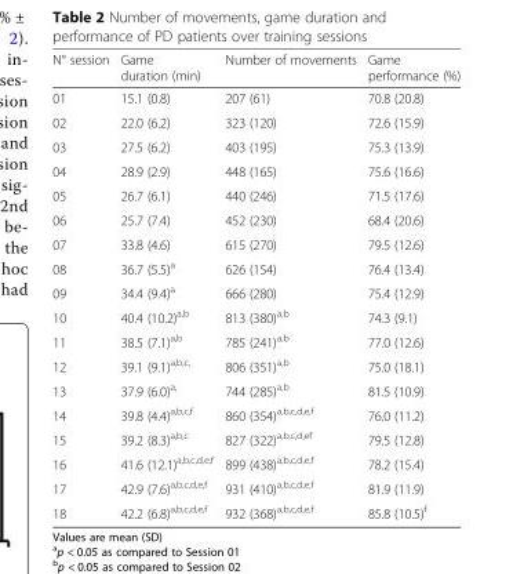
<table><thead><tr><td>N° session</td><td>Game duration (min)</td><td>Number of movements</td><td>Game performance (%)</td></tr></thead><tbody><tr><td>01</td><td>15.1 (0.8)</td><td>207 (61)</td><td>70.8 (20.8)</td></tr><tr><td>02</td><td>22.0 (6.2)</td><td>323 (120)</td><td>72.6 (15.9)</td></tr><tr><td>03</td><td>27.5 (6.2)</td><td>403 (195)</td><td>75.3 (13.9)</td></tr><tr><td>04</td><td>28.9 (2.9)</td><td>448 (165)</td><td>75.6 (16.6)</td></tr><tr><td>05</td><td>26.7 (6.1)</td><td>440 (246)</td><td>71.5 (17.6)</td></tr><tr><td>06</td><td>25.7 (7.4)</td><td>452 (230)</td><td>68.4 (20.6)</td></tr><tr><td>07</td><td>33.8 (4.6)</td><td>615 (270)</td><td>79.5 (12.6)</td></tr><tr><td>08</td><td>36.7 (5.5)<sup>a</sup></td><td>626 (154)</td><td>76.4 (13.4)</td></tr><tr><td>09</td><td>34.4 (9.4)<sup>a</sup></td><td>666 (280)</td><td>75.4 (12.9)</td></tr><tr><td>10</td><td>40.4 (10.2)<sup>a,b</sup></td><td>813 (380)<sup>a,b</sup></td><td>74.3 (9.1)</td></tr><tr><td>11</td><td>38.5 (7.1)<sup>a,b</sup></td><td>785 (241)<sup>a,b</sup></td><td>77.0 (12.6)</td></tr><tr><td>12</td><td>39.1 (9.1)<sup>a,b,c,</sup></td><td>806 (351)<sup>a,b</sup></td><td>75.0 (18.1)</td></tr><tr><td>13</td><td>37.9 (6.0)<sup>a,</sup></td><td>744 (285)<sup>a,b</sup></td><td>81.5 (10.9)</td></tr><tr><td>14</td><td>39.8 (4.4)<sup>a,b,c,f</sup></td><td>860 (354)<sup>a,b,c,d,e,f</sup></td><td>76.0 (11.2)</td></tr><tr><td>15</td><td>39.2 (8.3)<sup>a,b,c</sup></td><td>827 (322)<sup>a,b,c,d,ef</sup></td><td>79.5 (12.8)</td></tr><tr><td>16</td><td>41.6 (12.1)<sup>a,b,c,d,e,f</sup></td><td>899 (438)<sup>a,b,c,d,e,f</sup></td><td>78.2 (15.4)</td></tr><tr><td>17</td><td>42.9 (7.6)<sup>a,b,c,d,e,f</sup></td><td>931 (410)<sup>a,b,c,d,e,f</sup></td><td>81.9 (11.9)</td></tr><tr><td>18</td><td>42.2 (6.8)<sup>a,b,c,d,e,f</sup></td><td>932 (368)<sup>a,b,c,d,e,f</sup></td><td>85.8 (10.5)<sup>f</sup></td></tr></tbody></table>